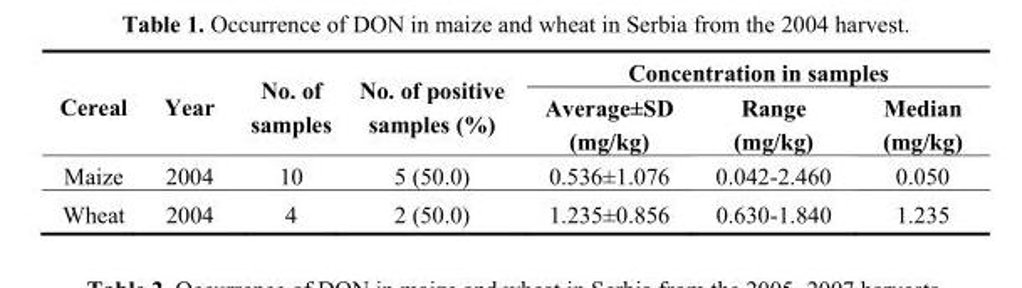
<table><thead><tr><td rowspan="2">Cereal</td><td rowspan="2">Year</td><td rowspan="2">No. of samples</td><td rowspan="2">No. of positive samples (%)</td><td colspan="3">Concentration in samples</td></tr><tr><td>Average±SD (mg/kg)</td><td>Range (mg/kg)</td><td>Median (mg/kg)</td></tr></thead><tbody><tr><td>Maize</td><td>2004</td><td>10</td><td>5 (50.0)</td><td>0.536±1.076</td><td>0.042-2.460</td><td>0.050</td></tr><tr><td>Wheat</td><td>2004</td><td>4</td><td>2 (50.0)</td><td>1.235±0.856</td><td>0.630-1.840</td><td>1.235</td></tr></tbody></table>